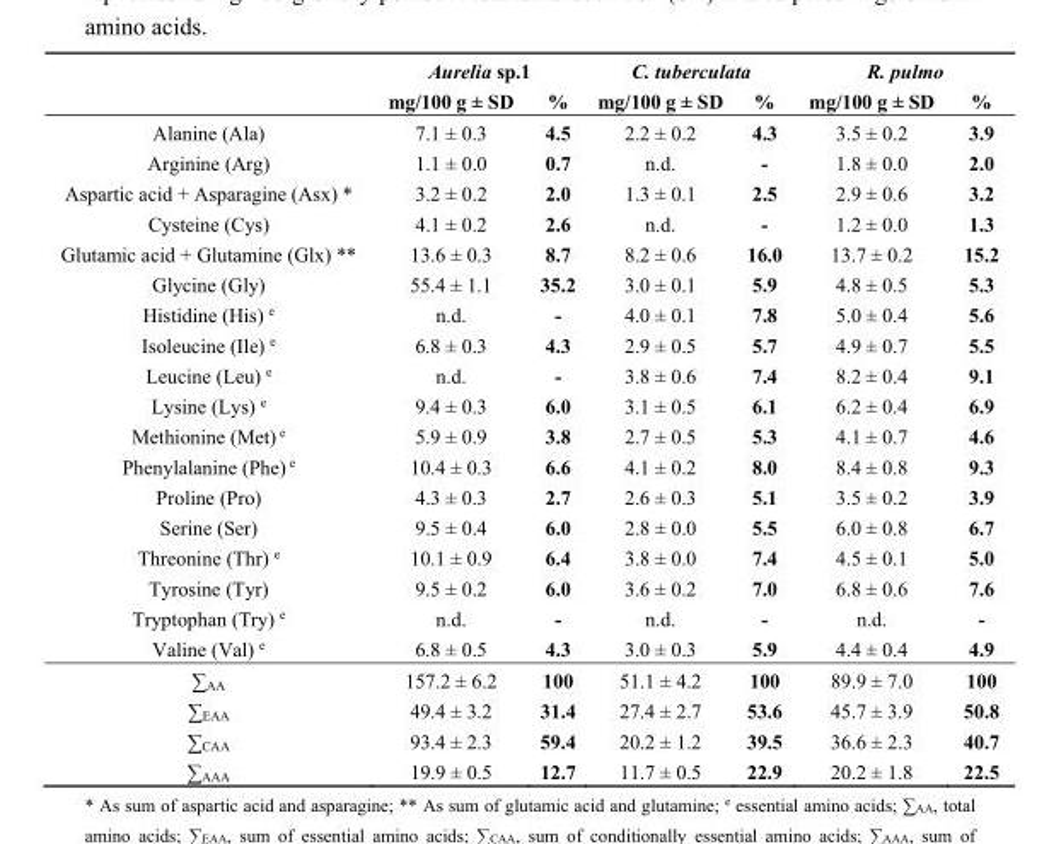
<table><thead><tr><td rowspan="2"></td><td colspan="2">Aurelia sp.1</td><td colspan="2">C. tuberculata</td><td colspan="2">R. pulmo</td></tr><tr><td>mg/100 g ± SD</td><td>%</td><td>mg/100 g ± SD</td><td>%</td><td>mg/100 g ± SD</td><td>%</td></tr></thead><tbody><tr><td>Alanine (Ala)</td><td>7.1 ± 0.3</td><td>4.5</td><td>2.2 ± 0.2</td><td>4.3</td><td>3.5 ± 0.2</td><td>3.9</td></tr><tr><td>Arginine (Arg)</td><td>1.1 ± 0.0</td><td>0.7</td><td>n.d.</td><td>-</td><td>1.8 ± 0.0</td><td>2.0</td></tr><tr><td>Aspartic acid + Asparagine (Asx) *</td><td>3.2 ± 0.2</td><td>2.0</td><td>1.3 ± 0.1</td><td>2.5</td><td>2.9 ± 0.6</td><td>3.2</td></tr><tr><td>Cysteine (Cys)</td><td>4.1 ± 0.2</td><td>2.6</td><td>n.d.</td><td>-</td><td>1.2 ± 0.0</td><td>1.3</td></tr><tr><td>Glutamic acid + Glutamine (Glx) **</td><td>13.6 ± 0.3</td><td>8.7</td><td>8.2 ± 0.6</td><td>16.0</td><td>13.7 ± 0.2</td><td>15.2</td></tr><tr><td>Glycine (Gly)</td><td>55.4 ± 1.1</td><td>35.2</td><td>3.0 ± 0.1</td><td>5.9</td><td>4.8 ± 0.5</td><td>5.3</td></tr><tr><td>Histidine (His) <sup>e</sup></td><td>n.d.</td><td>-</td><td>4.0 ± 0.1</td><td>7.8</td><td>5.0 ± 0.4</td><td>5.6</td></tr><tr><td>Isoleucine (Ile) <sup>e</sup></td><td>6.8 ± 0.3</td><td>4.3</td><td>2.9 ± 0.5</td><td>5.7</td><td>4.9 ± 0.7</td><td>5.5</td></tr><tr><td>Leucine (Leu) <sup>e</sup></td><td>n.d.</td><td>-</td><td>3.8 ± 0.6</td><td>7.4</td><td>8.2 ± 0.4</td><td>9.1</td></tr><tr><td>Lysine (Lys) <sup>e</sup></td><td>9.4 ± 0.3</td><td>6.0</td><td>3.1 ± 0.5</td><td>6.1</td><td>6.2 ± 0.4</td><td>6.9</td></tr><tr><td>Methionine (Met) <sup>e</sup></td><td>5.9 ± 0.9</td><td>3.8</td><td>2.7 ± 0.5</td><td>5.3</td><td>4.1 ± 0.7</td><td>4.6</td></tr><tr><td>Phenylalanine (Phe) <sup>e</sup></td><td>10.4 ± 0.3</td><td>6.6</td><td>4.1 ± 0.2</td><td>8.0</td><td>8.4 ± 0.8</td><td>9.3</td></tr><tr><td>Proline (Pro)</td><td>4.3 ± 0.3</td><td>2.7</td><td>2.6 ± 0.3</td><td>5.1</td><td>3.5 ± 0.2</td><td>3.9</td></tr><tr><td>Serine (Ser)</td><td>9.5 ± 0.4</td><td>6.0</td><td>2.8 ± 0.0</td><td>5.5</td><td>6.0 ± 0.8</td><td>6.7</td></tr><tr><td>Threonine (Thr) <sup>e</sup></td><td>10.1 ± 0.9</td><td>6.4</td><td>3.8 ± 0.0</td><td>7.4</td><td>4.5 ± 0.1</td><td>5.0</td></tr><tr><td>Tyrosine (Tyr)</td><td>9.5 ± 0.2</td><td>6.0</td><td>3.6 ± 0.2</td><td>7.0</td><td>6.8 ± 0.6</td><td>7.6</td></tr><tr><td>Tryptophan (Try) <sup>e</sup></td><td>n.d.</td><td>-</td><td>n.d.</td><td>-</td><td>n.d.</td><td>-</td></tr><tr><td>Valine (Val) <sup>e</sup></td><td>6.8 ± 0.5</td><td>4.3</td><td>3.0 ± 0.3</td><td>5.9</td><td>4.4 ± 0.4</td><td>4.9</td></tr><tr><td>∑<sub>AA</sub></td><td>157.2 ± 6.2</td><td>100</td><td>51.1 ± 4.2</td><td>100</td><td>89.9 ± 7.0</td><td>100</td></tr><tr><td>∑<sub>EAA</sub></td><td>49.4 ± 3.2</td><td>31.4</td><td>27.4 ± 2.7</td><td>53.6</td><td>45.7 ± 3.9</td><td>50.8</td></tr><tr><td>∑<sub>CAA</sub></td><td>93.4 ± 2.3</td><td>59.4</td><td>20.2 ± 1.2</td><td>39.5</td><td>36.6 ± 2.3</td><td>40.7</td></tr><tr><td>∑<sub>AAA</sub></td><td>19.9 ± 0.5</td><td>12.7</td><td>11.7 ± 0.5</td><td>22.9</td><td>20.2 ± 1.8</td><td>22.5</td></tr></tbody></table>